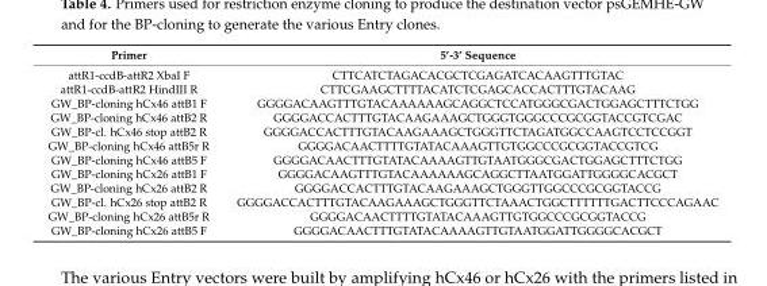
<table><thead><tr><td>Primer</td><td>5’-3’ Sequence</td></tr></thead><tbody><tr><td>attR1-ccdB-attR2 XbaI F</td><td>CTTCATCTAGACACGCTCGAGATCACAAGTTTGTAC</td></tr><tr><td>attR1-ccdB-attR2 HindIII R</td><td>CTTCGAAGCTTTTACATCTCGAGCACCACTTTGTACAAG</td></tr><tr><td>GW_BP-cloning hCx46 attB1 F</td><td>GGGGACAAGTTTGTACAAAAAAGCAGGCTCCATGGGCGACTGGAGCTTTCTGG</td></tr><tr><td>GW_BP-cloning hCx46 attB2 R</td><td>GGGGACCACTTTGTACAAGAAAGCTGGGTGGGCCCGCGGTACCGTCGAC</td></tr><tr><td>GW_BP-cl. hCx46 stop attB2 R</td><td>GGGGACCACTTTGTACAAGAAAGCTGGGTTCTAGATGGCCAAGTCCTCCGGT</td></tr><tr><td>GW_BP-cloning hCx46 attB5r R</td><td>GGGGACAACTTTTGTATACAAAGTTGTGGCCCGCGGTACCGTCG</td></tr><tr><td>GW_BP-cloning hCx46 attB5 F</td><td>GGGGACAACTTTGTATACAAAAGTTGTAATGGGCGACTGGAGCTTTCTGG</td></tr><tr><td>GW_BP-cloning hCx26 attB1 F</td><td>GGGGACAAGTTTGTACAAAAAAGCAGGCTTAATGGATTGGGGCACGCT</td></tr><tr><td>GW_BP-cloning hCx26 attB2 R</td><td>GGGGACCACTTTGTACAAGAAAGCTGGGTTGGCCCGCGGTACCG</td></tr><tr><td>GW_BP-cl. hCx26 stop attB2 R</td><td>GGGGACCACTTTGTACAAGAAAGCTGGGTTCTAAACTGGCTTTTTTGACTTCCCAGAAC</td></tr><tr><td>GW_BP-cloning hCx26 attB5r R</td><td>GGGGACAACTTTTGTATACAAAGTTGTGGCCCGCGGTACCG</td></tr><tr><td>GW_BP-cloning hCx26 attB5 F</td><td>GGGGACAACTTTGTATACAAAAGTTGTAATGGATTGGGGCACGCT</td></tr></tbody></table>